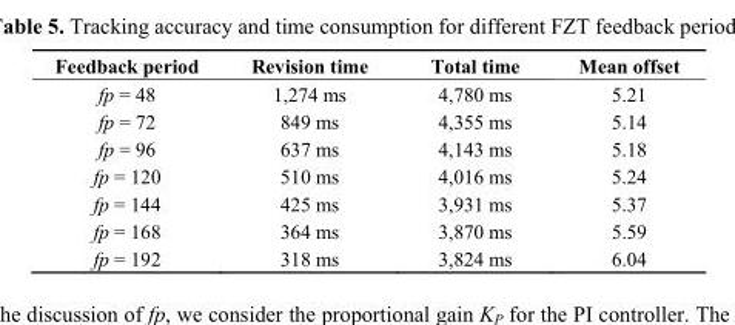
<table><thead><tr><td>Feedback period</td><td>Revision time</td><td>Total time</td><td>Mean offset</td></tr></thead><tbody><tr><td>fp = 48</td><td>1,274 ms</td><td>4,780 ms</td><td>5.21</td></tr><tr><td>fp = 72</td><td>849 ms</td><td>4,355 ms</td><td>5.14</td></tr><tr><td>fp = 96</td><td>637 ms</td><td>4,143 ms</td><td>5.18</td></tr><tr><td>fp = 120</td><td>510 ms</td><td>4,016 ms</td><td>5.24</td></tr><tr><td>fp = 144</td><td>425 ms</td><td>3,931 ms</td><td>5.37</td></tr><tr><td>fp = 168</td><td>364 ms</td><td>3,870 ms</td><td>5.59</td></tr><tr><td>fp = 192</td><td>318 ms</td><td>3,824 ms</td><td>6.04</td></tr></tbody></table>